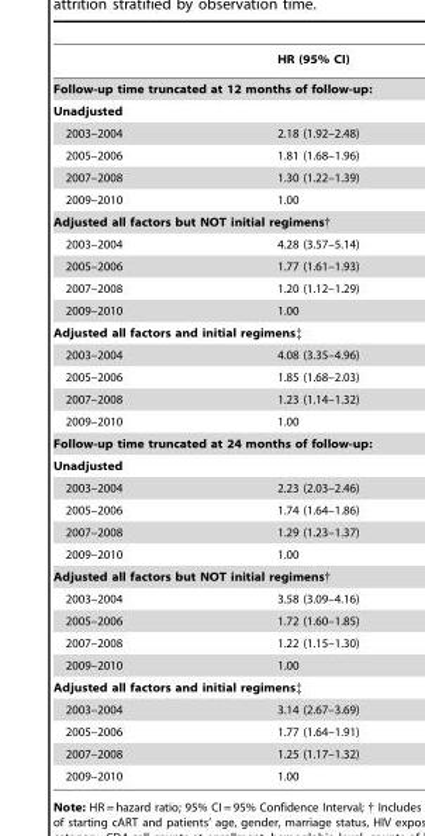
<table><thead><tr><td></td><td>HR (95% CI)</td></tr></thead><tbody><tr><td colspan="2">Follow-up time truncated at 12 months of follow-up:</td></tr><tr><td colspan="2">Unadjusted</td></tr><tr><td>2003–2004</td><td>2.18 (1.92–2.48)</td></tr><tr><td>2005–2006</td><td>1.81 (1.68–1.96)</td></tr><tr><td>2007–2008</td><td>1.30 (1.22–1.39)</td></tr><tr><td>2009–2010</td><td>1.00</td></tr><tr><td colspan="2">Adjusted all factors but NOT initial regimens†</td></tr><tr><td>2003–2004</td><td>4.28 (3.57–5.14)</td></tr><tr><td>2005–2006</td><td>1.77 (1.61–1.93)</td></tr><tr><td>2007–2008</td><td>1.20 (1.12–1.29)</td></tr><tr><td>2009–2010</td><td>1.00</td></tr><tr><td colspan="2">Adjusted all factors and initial regimens‡</td></tr><tr><td>2003–2004</td><td>4.08 (3.35–4.96)</td></tr><tr><td>2005–2006</td><td>1.85 (1.68–2.03)</td></tr><tr><td>2007–2008</td><td>1.23 (1.14–1.32)</td></tr><tr><td>2009–2010</td><td>1.00</td></tr><tr><td colspan="2">Follow-up time truncated at 24 months of follow-up:</td></tr><tr><td colspan="2">Unadjusted</td></tr><tr><td>2003–2004</td><td>2.23 (2.03–2.46)</td></tr><tr><td>2005–2006</td><td>1.74 (1.64–1.86)</td></tr><tr><td>2007–2008</td><td>1.29 (1.23–1.37)</td></tr><tr><td>2009–2010</td><td>1.00</td></tr><tr><td colspan="2">Adjusted all factors but NOT initial regimens†</td></tr><tr><td>2003–2004</td><td>3.58 (3.09–4.16)</td></tr><tr><td>2005–2006</td><td>1.72 (1.60–1.85)</td></tr><tr><td>2007–2008</td><td>1.22 (1.15–1.30)</td></tr><tr><td>2009–2010</td><td>1.00</td></tr><tr><td colspan="2">Adjusted all factors and initial regimens‡</td></tr><tr><td>2003–2004</td><td>3.14 (2.67–3.69)</td></tr><tr><td>2005–2006</td><td>1.77 (1.64–1.91)</td></tr><tr><td>2007–2008</td><td>1.25 (1.17–1.32)</td></tr><tr><td>2009–2010</td><td>1.00</td></tr></tbody></table>